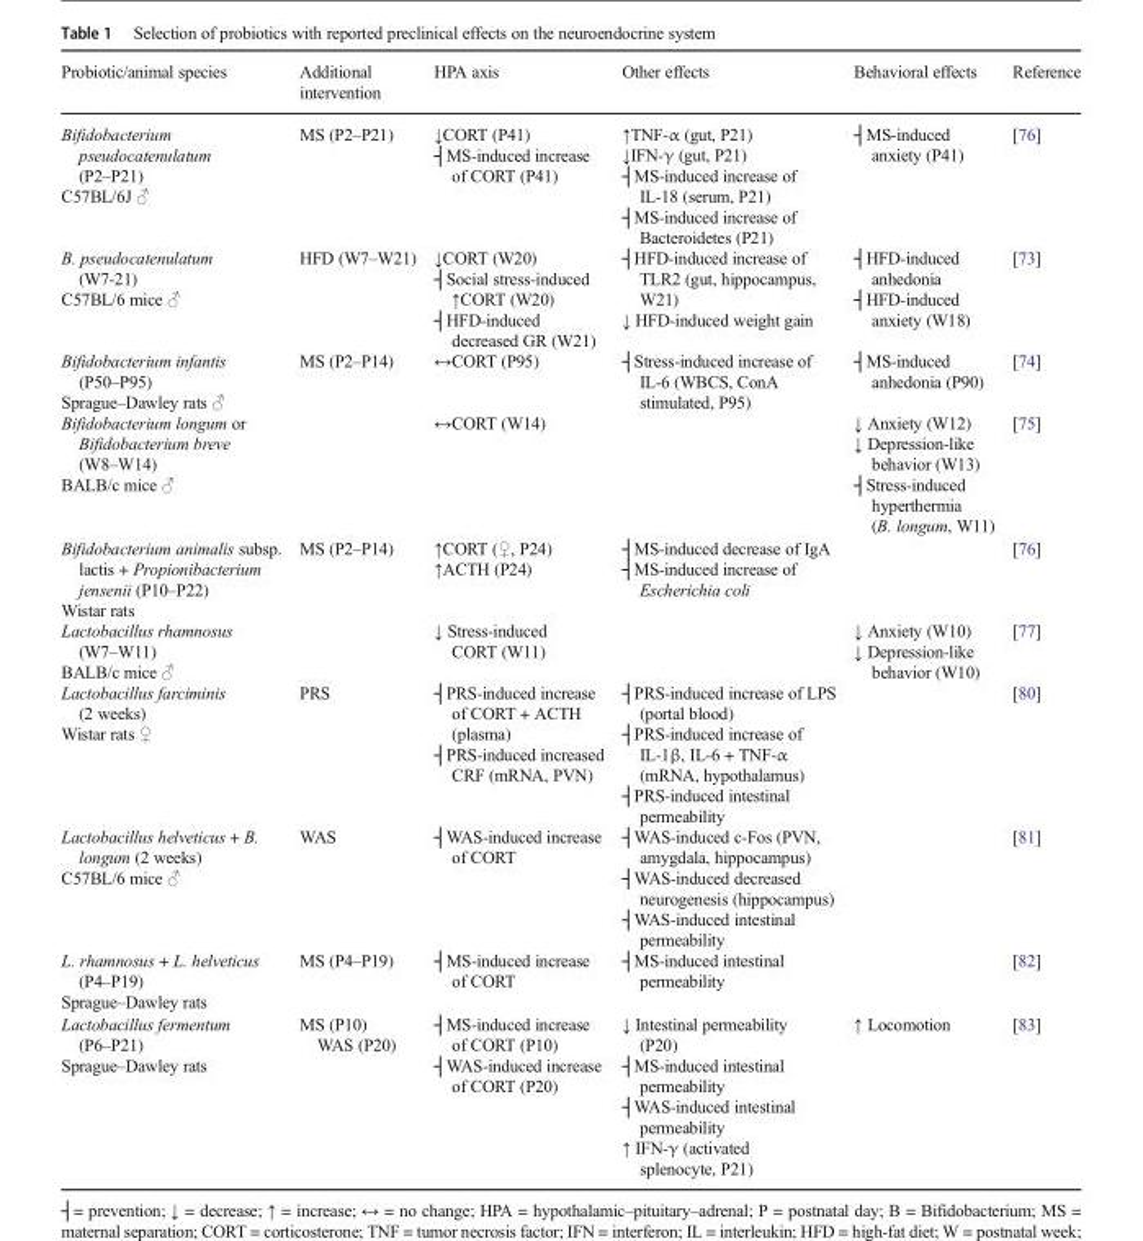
<table><thead><tr><td>Probiotic/animal species</td><td>Additional intervention</td><td>HPA axis</td><td>Other effects</td><td>Behavioral effects</td><td>Reference</td></tr></thead><tbody><tr><td>Bifidobacterium pseudocatenulatum (P2–P21) C57BL/6J ♂</td><td>MS (P2–P21)</td><td>↓CORT (P41) ┤MS-induced increase of CORT (P41)</td><td>↑TNF-α (gut, P21) ↓IFN-γ (gut, P21) ┤MS-induced increase of IL-18 (serum, P21) ┤MS-induced increase of Bacteroidetes (P21)</td><td>┤MS-induced anxiety (P41)</td><td>[76]</td></tr><tr><td>B. pseudocatenulatum (W7-21) C57BL/6 mice ♂</td><td>HFD (W7–W21)</td><td>↓CORT (W20) ┤Social stress-induced ↑CORT (W20) ┤HFD-induced decreased GR (W21)</td><td>┤HFD-induced increase of TLR2 (gut, hippocampus, W21) ↓ HFD-induced weight gain</td><td>┤HFD-induced anhedonia ┤HFD-induced anxiety (W18)</td><td>[73]</td></tr><tr><td>Bifidobacterium infantis (P50–P95) Sprague–Dawley rats ♂</td><td>MS (P2–P14)</td><td>↔CORT (P95)</td><td>┤Stress-induced increase of IL-6 (WBCS, ConA stimulated, P95)</td><td>┤MS-induced anhedonia (P90)</td><td>[74]</td></tr><tr><td>Bifidobacterium longum or Bifidobacterium breve (W8–W14) BALB/c mice ♂</td><td></td><td>↔CORT (W14)</td><td></td><td>↓ Anxiety (W12) ↓ Depression-like behavior (W13) ┤Stress-induced hyperthermia (B. longum, W11)</td><td>[75]</td></tr><tr><td>Bifidobacterium animalis subsp. lactis + Propionibacterium jensenii (P10–P22) Wistar rats</td><td>MS (P2–P14)</td><td>↑CORT (♀, P24) ↑ACTH (P24)</td><td>┤MS-induced decrease of IgA ┤MS-induced increase of Escherichia coli</td><td></td><td>[76]</td></tr><tr><td>Lactobacillus rhamnosus (W7–W11) BALB/c mice ♂</td><td></td><td>↓ Stress-induced CORT (W11)</td><td></td><td>↓ Anxiety (W10) ↓ Depression-like behavior (W10)</td><td>[77]</td></tr><tr><td>Lactobacillus farciminis (2 weeks) Wistar rats ♀</td><td>PRS</td><td>┤PRS-induced increase of CORT + ACTH (plasma) ┤PRS-induced increased CRF (mRNA, PVN)</td><td>┤PRS-induced increase of LPS (portal blood) ┤PRS-induced increase of IL-1β, IL-6 + TNF-α (mRNA, hypothalamus) ┤PRS-induced intestinal permeability</td><td></td><td>[80]</td></tr><tr><td>Lactobacillus helveticus + B. longum (2 weeks) C57BL/6 mice ♂</td><td>WAS</td><td>┤WAS-induced increase of CORT</td><td>┤WAS-induced c-Fos (PVN, amygdala, hippocampus) ┤WAS-induced decreased neurogenesis (hippocampus) ┤WAS-induced intestinal permeability</td><td></td><td>[81]</td></tr><tr><td>L. rhamnosus + L. helveticus (P4–P19) Sprague–Dawley rats</td><td>MS (P4–P19)</td><td>┤MS-induced increase of CORT</td><td>┤MS-induced intestinal permeability</td><td></td><td>[82]</td></tr><tr><td>Lactobacillus fermentum (P6–P21) Sprague–Dawley rats</td><td>MS (P10) WAS (P20)</td><td>┤MS-induced increase of CORT (P10) ┤WAS-induced increase of CORT (P20)</td><td>↓ Intestinal permeability (P20) ┤MS-induced intestinal permeability ┤WAS-induced intestinal permeability ↑ IFN-γ (activated splenocyte, P21)</td><td>↑ Locomotion</td><td>[83]</td></tr></tbody></table>